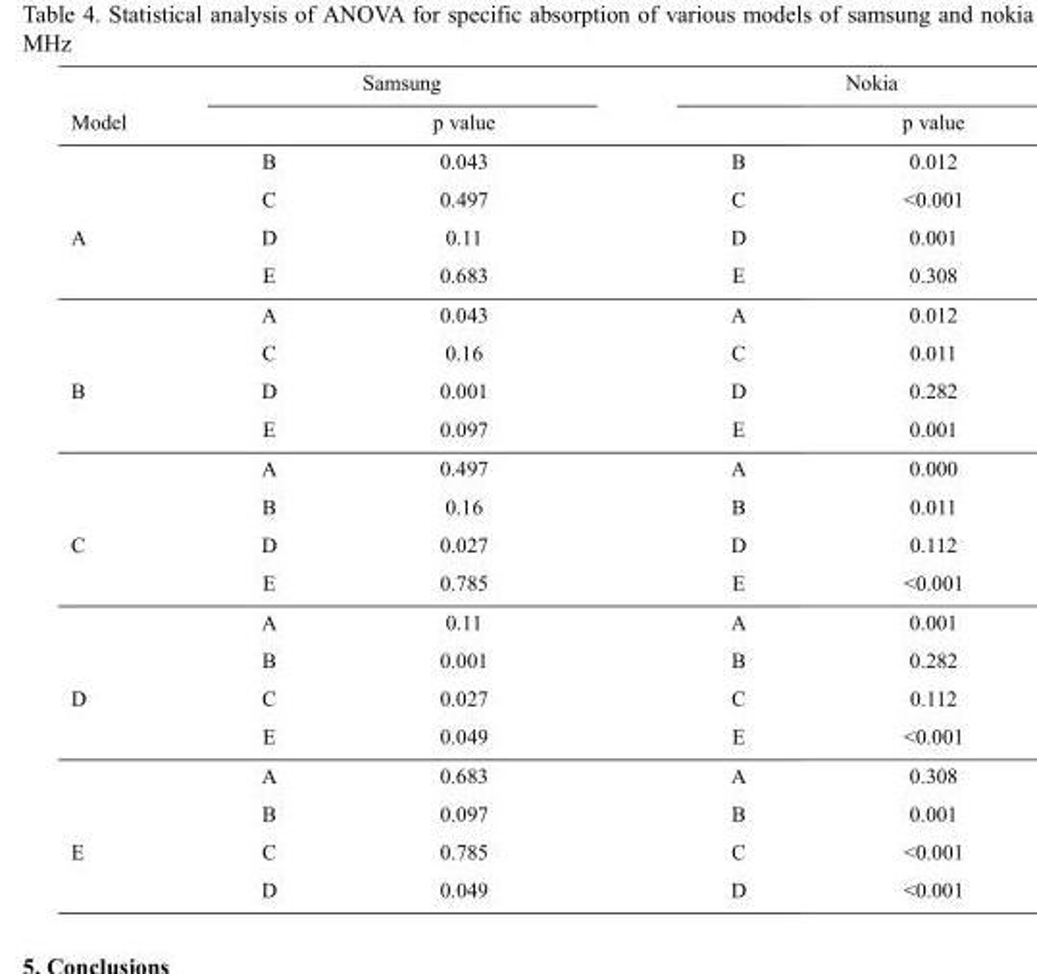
<table><thead><tr><td rowspan="2">Model</td><td colspan="2">Samsung</td><td colspan="2">Nokia</td></tr><tr><td></td><td>p value</td><td></td><td>p value</td></tr></thead><tbody><tr><td rowspan="4">A</td><td>B</td><td>0.043</td><td>B</td><td>0.012</td></tr><tr><td>C</td><td>0.497</td><td>C</td><td>&lt;0.001</td></tr><tr><td>D</td><td>0.11</td><td>D</td><td>0.001</td></tr><tr><td>E</td><td>0.683</td><td>E</td><td>0.308</td></tr><tr><td rowspan="4">B</td><td>A</td><td>0.043</td><td>A</td><td>0.012</td></tr><tr><td>C</td><td>0.16</td><td>C</td><td>0.011</td></tr><tr><td>D</td><td>0.001</td><td>D</td><td>0.282</td></tr><tr><td>E</td><td>0.097</td><td>E</td><td>0.001</td></tr><tr><td rowspan="4">C</td><td>A</td><td>0.497</td><td>A</td><td>0.000</td></tr><tr><td>B</td><td>0.16</td><td>B</td><td>0.011</td></tr><tr><td>D</td><td>0.027</td><td>D</td><td>0.112</td></tr><tr><td>E</td><td>0.785</td><td>E</td><td>&lt;0.001</td></tr><tr><td rowspan="4">D</td><td>A</td><td>0.11</td><td>A</td><td>0.001</td></tr><tr><td>B</td><td>0.001</td><td>B</td><td>0.282</td></tr><tr><td>C</td><td>0.027</td><td>C</td><td>0.112</td></tr><tr><td>E</td><td>0.049</td><td>E</td><td>&lt;0.001</td></tr><tr><td rowspan="4">E</td><td>A</td><td>0.683</td><td>A</td><td>0.308</td></tr><tr><td>B</td><td>0.097</td><td>B</td><td>0.001</td></tr><tr><td>C</td><td>0.785</td><td>C</td><td>&lt;0.001</td></tr><tr><td>D</td><td>0.049</td><td>D</td><td>&lt;0.001</td></tr></tbody></table>